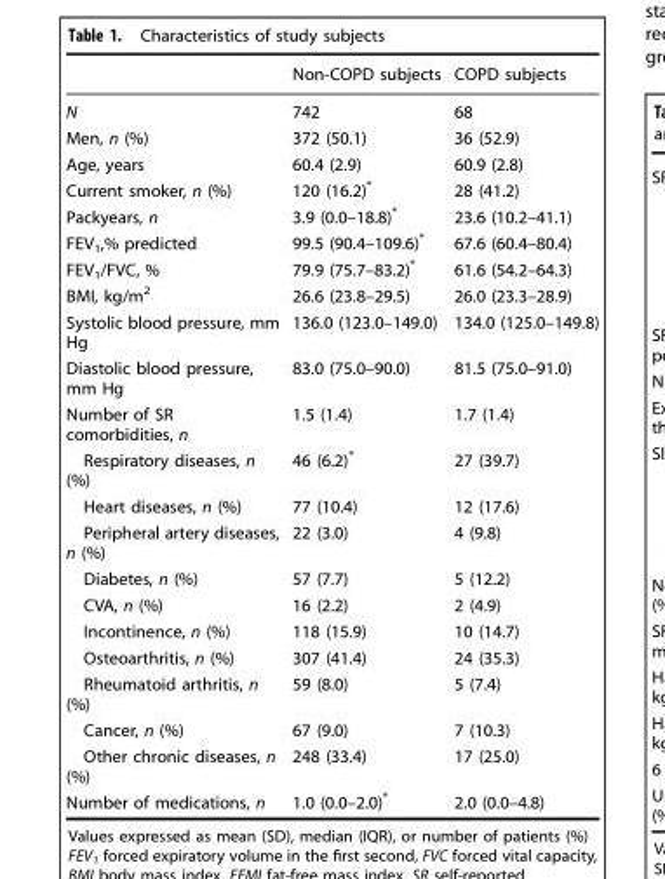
<table><thead><tr><td></td><td>Non-COPD subjects</td><td>COPD subjects</td></tr></thead><tbody><tr><td>N</td><td>742</td><td>68</td></tr><tr><td>Men, n (%)</td><td>372 (50.1)</td><td>36 (52.9)</td></tr><tr><td>Age, years</td><td>60.4 (2.9)</td><td>60.9 (2.8)</td></tr><tr><td>Current smoker, n (%)</td><td>120 (16.2)*</td><td>28 (41.2)</td></tr><tr><td>Packyears, n</td><td>3.9 (0.0–18.8)*</td><td>23.6 (10.2–41.1)</td></tr><tr><td>FEV<sub>1</sub>,% predicted</td><td>99.5 (90.4–109.6)*</td><td>67.6 (60.4–80.4)</td></tr><tr><td>FEV<sub>1</sub>/FVC, %</td><td>79.9 (75.7–83.2)*</td><td>61.6 (54.2–64.3)</td></tr><tr><td>BMI, kg/m<sup>2</sup></td><td>26.6 (23.8–29.5)</td><td>26.0 (23.3–28.9)</td></tr><tr><td>Systolic blood pressure, mm Hg</td><td>136.0 (123.0–149.0)</td><td>134.0 (125.0–149.8)</td></tr><tr><td>Diastolic blood pressure, mm Hg</td><td>83.0 (75.0–90.0)</td><td>81.5 (75.0–91.0)</td></tr><tr><td>Number of SR comorbidities, n</td><td>1.5 (1.4)</td><td>1.7 (1.4)</td></tr><tr><td>Respiratory diseases, n (%)</td><td>46 (6.2)*</td><td>27 (39.7)</td></tr><tr><td>Heart diseases, n (%)</td><td>77 (10.4)</td><td>12 (17.6)</td></tr><tr><td>Peripheral artery diseases, n (%)</td><td>22 (3.0)</td><td>4 (9.8)</td></tr><tr><td>Diabetes, n (%)</td><td>57 (7.7)</td><td>5 (12.2)</td></tr><tr><td>CVA, n (%)</td><td>16 (2.2)</td><td>2 (4.9)</td></tr><tr><td>Incontinence, n (%)</td><td>118 (15.9)</td><td>10 (14.7)</td></tr><tr><td>Osteoarthritis, n (%)</td><td>307 (41.4)</td><td>24 (35.3)</td></tr><tr><td>Rheumatoid arthritis, n (%)</td><td>59 (8.0)</td><td>5 (7.4)</td></tr><tr><td>Cancer, n (%)</td><td>67 (9.0)</td><td>7 (10.3)</td></tr><tr><td>Other chronic diseases, n (%)</td><td>248 (33.4)</td><td>17 (25.0)</td></tr><tr><td>Number of medications, n</td><td>1.0 (0.0–2.0)*</td><td>2.0 (0.0–4.8)</td></tr></tbody></table>